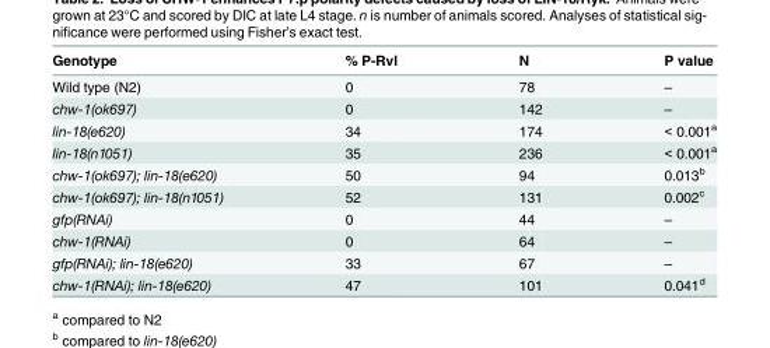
<table><thead><tr><td>Genotype</td><td>% P-Rvl</td><td>N</td><td>P value</td></tr></thead><tbody><tr><td>Wild type (N2)</td><td>0</td><td>78</td><td>–</td></tr><tr><td>chw-1(ok697)</td><td>0</td><td>142</td><td>–</td></tr><tr><td>lin-18(e620)</td><td>34</td><td>174</td><td>&lt; 0.001<sup>a</sup></td></tr><tr><td>lin-18(n1051)</td><td>35</td><td>236</td><td>&lt; 0.001<sup>a</sup></td></tr><tr><td>chw-1(ok697); lin-18(e620)</td><td>50</td><td>94</td><td>0.013<sup>b</sup></td></tr><tr><td>chw-1(ok697); lin-18(n1051)</td><td>52</td><td>131</td><td>0.002<sup>c</sup></td></tr><tr><td>gfp(RNAi)</td><td>0</td><td>44</td><td>–</td></tr><tr><td>chw-1(RNAi)</td><td>0</td><td>64</td><td>–</td></tr><tr><td>gfp(RNAi); lin-18(e620)</td><td>33</td><td>67</td><td>–</td></tr><tr><td>chw-1(RNAi); lin-18(e620)</td><td>47</td><td>101</td><td>0.041<sup>d</sup></td></tr></tbody></table>